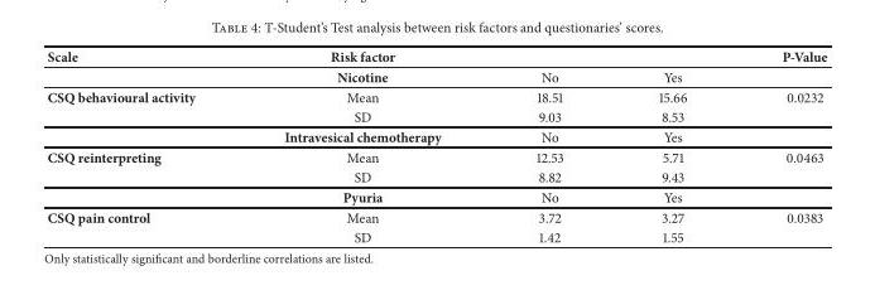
<table><thead><tr><td>Scale</td><td>Risk factor</td><td></td><td></td><td>P-Value</td></tr></thead><tbody><tr><td></td><td>Nicotine</td><td>No</td><td>Yes</td><td></td></tr><tr><td rowspan="3">CSQ behavioural activity</td><td>Mean</td><td>18.51</td><td>15.66</td><td>0.0232</td></tr><tr><td>SD</td><td>9.03</td><td>8.53</td><td></td></tr><tr><td>Intravesical chemotherapy</td><td>No</td><td>Yes</td><td></td></tr><tr><td rowspan="3">CSQ reinterpreting</td><td>Mean</td><td>12.53</td><td>5.71</td><td>0.0463</td></tr><tr><td>SD</td><td>8.82</td><td>9.43</td><td></td></tr><tr><td>Pyuria</td><td>No</td><td>Yes</td><td></td></tr><tr><td rowspan="2">CSQ pain control</td><td>Mean</td><td>3.72</td><td>3.27</td><td>0.0383</td></tr><tr><td>SD</td><td>1.42</td><td>1.55</td><td></td></tr></tbody></table>